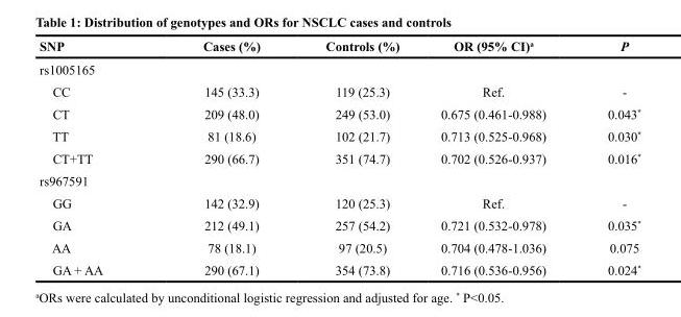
<table><thead><tr><td>SNP</td><td>Cases (%)</td><td>Controls (%)</td><td>OR (95% CI)<sup>a</sup></td><td>P</td></tr></thead><tbody><tr><td colspan="5">rs1005165</td></tr><tr><td>CC</td><td>145 (33.3)</td><td>119 (25.3)</td><td>Ref.</td><td>-</td></tr><tr><td>CT</td><td>209 (48.0)</td><td>249 (53.0)</td><td>0.675 (0.461-0.988)</td><td>0.043*</td></tr><tr><td>TT</td><td>81 (18.6)</td><td>102 (21.7)</td><td>0.713 (0.525-0.968)</td><td>0.030*</td></tr><tr><td>CT+TT</td><td>290 (66.7)</td><td>351 (74.7)</td><td>0.702 (0.526-0.937)</td><td>0.016*</td></tr><tr><td colspan="5">rs967591</td></tr><tr><td>GG</td><td>142 (32.9)</td><td>120 (25.3)</td><td>Ref.</td><td>-</td></tr><tr><td>GA</td><td>212 (49.1)</td><td>257 (54.2)</td><td>0.721 (0.532-0.978)</td><td>0.035*</td></tr><tr><td>AA</td><td>78 (18.1)</td><td>97 (20.5)</td><td>0.704 (0.478-1.036)</td><td>0.075</td></tr><tr><td>GA + AA</td><td>290 (67.1)</td><td>354 (73.8)</td><td>0.716 (0.536-0.956)</td><td>0.024*</td></tr></tbody></table>